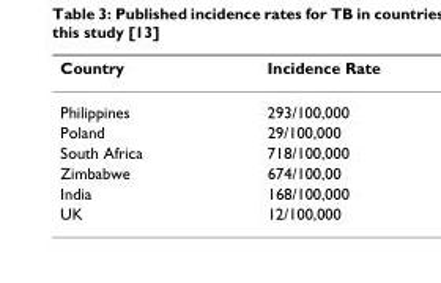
<table><thead><tr><td>Country</td><td>Incidence Rate</td></tr></thead><tbody><tr><td>Philippines</td><td>293/100,000</td></tr><tr><td>Poland</td><td>29/100,000</td></tr><tr><td>South Africa</td><td>718/100,000</td></tr><tr><td>Zimbabwe</td><td>674/100,00</td></tr><tr><td>India</td><td>168/100,000</td></tr><tr><td>UK</td><td>12/100,000</td></tr></tbody></table>